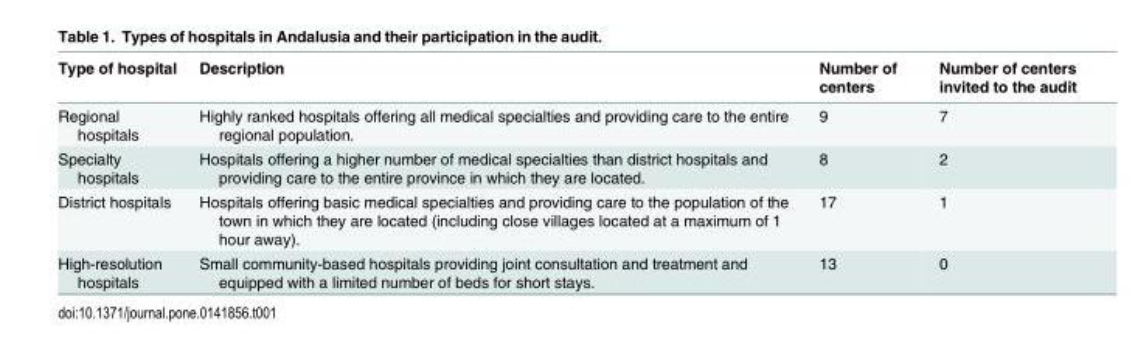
<table><thead><tr><td>Type of hospital</td><td>Description</td><td>Number of centers</td><td>Number of centers invited to the audit</td></tr></thead><tbody><tr><td>Regional hospitals</td><td>Highly ranked hospitals offering all medical specialties and providing care to the entire regional population.</td><td>9</td><td>7</td></tr><tr><td>Specialty hospitals</td><td>Hospitals offering a higher number of medical specialties than district hospitals and providing care to the entire province in which they are located.</td><td>8</td><td>2</td></tr><tr><td>District hospitals</td><td>Hospitals offering basic medical specialties and providing care to the population of the town in which they are located (including close villages located at a maximum of 1 hour away).</td><td>17</td><td>1</td></tr><tr><td>High-resolution hospitals</td><td>Small community-based hospitals providing joint consultation and treatment and equipped with a limited number of beds for short stays.</td><td>13</td><td>0</td></tr></tbody></table>